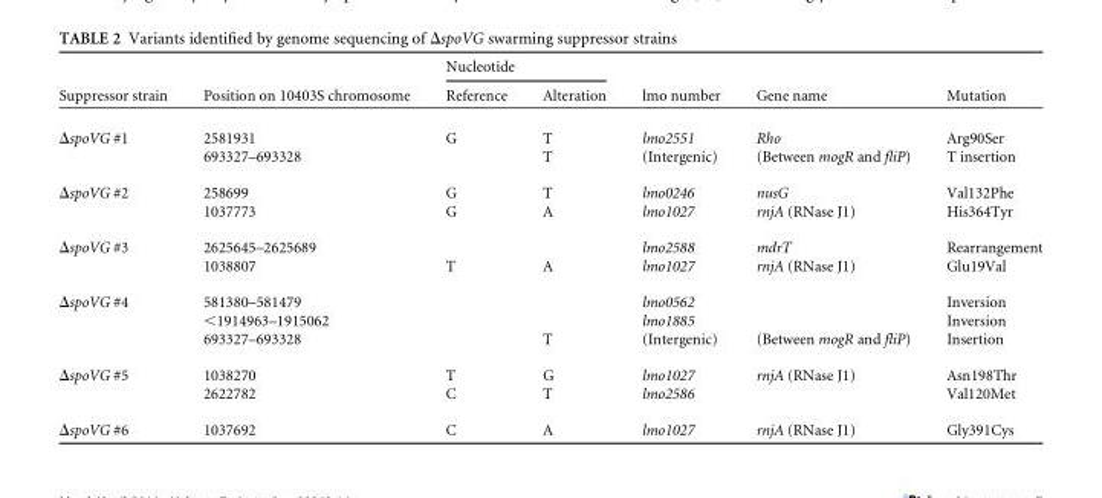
<table><thead><tr><td rowspan="2">Suppressor strain</td><td rowspan="2">Position on 10403S chromosome</td><td colspan="2">Nucleotide</td><td rowspan="2">lmo number</td><td rowspan="2">Gene name</td><td rowspan="2">Mutation</td></tr><tr><td>Reference</td><td>Alteration</td></tr></thead><tbody><tr><td rowspan="2">ΔspoVG #1</td><td>2581931</td><td>G</td><td>T</td><td>lmo2551</td><td>Rho</td><td>Arg90Ser</td></tr><tr><td>693327–693328</td><td></td><td>T</td><td>(Intergenic)</td><td>(Between mogR and fliP)</td><td>T insertion</td></tr><tr><td rowspan="2">ΔspoVG #2</td><td>258699</td><td>G</td><td>T</td><td>lmo0246</td><td>nusG</td><td>Val132Phe</td></tr><tr><td>1037773</td><td>G</td><td>A</td><td>lmo1027</td><td>rnjA (RNase J1)</td><td>His364Tyr</td></tr><tr><td rowspan="2">ΔspoVG #3</td><td>2625645–2625689</td><td></td><td></td><td>lmo2588</td><td>mdrT</td><td>Rearrangement</td></tr><tr><td>1038807</td><td>T</td><td>A</td><td>lmo1027</td><td>rnjA (RNase J1)</td><td>Glu19Val</td></tr><tr><td rowspan="3">ΔspoVG #4</td><td>581380–581479</td><td></td><td></td><td>lmo0562</td><td></td><td>Inversion</td></tr><tr><td>&lt;1914963–1915062</td><td></td><td></td><td>lmo1885</td><td></td><td>Inversion</td></tr><tr><td>693327–693328</td><td></td><td>T</td><td>(Intergenic)</td><td>(Between mogR and fliP)</td><td>Insertion</td></tr><tr><td rowspan="2">ΔspoVG #5</td><td>1038270</td><td>T</td><td>G</td><td>lmo1027</td><td>rnjA (RNase J1)</td><td>Asn198Thr</td></tr><tr><td>2622782</td><td>C</td><td>T</td><td>lmo2586</td><td></td><td>Val120Met</td></tr><tr><td>ΔspoVG #6</td><td>1037692</td><td>C</td><td>A</td><td>lmo1027</td><td>rnjA (RNase J1)</td><td>Gly391Cys</td></tr></tbody></table>